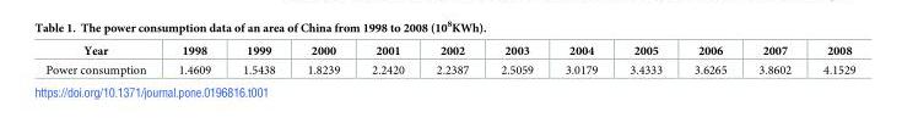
<table><thead><tr><td>Year</td><td>1998</td><td>1999</td><td>2000</td><td>2001</td><td>2002</td><td>2003</td><td>2004</td><td>2005</td><td>2006</td><td>2007</td><td>2008</td></tr></thead><tbody><tr><td>Power consumption</td><td>1.4609</td><td>1.5438</td><td>1.8239</td><td>2.2420</td><td>2.2387</td><td>2.5059</td><td>3.0179</td><td>3.4333</td><td>3.6265</td><td>3.8602</td><td>4.1529</td></tr></tbody></table>